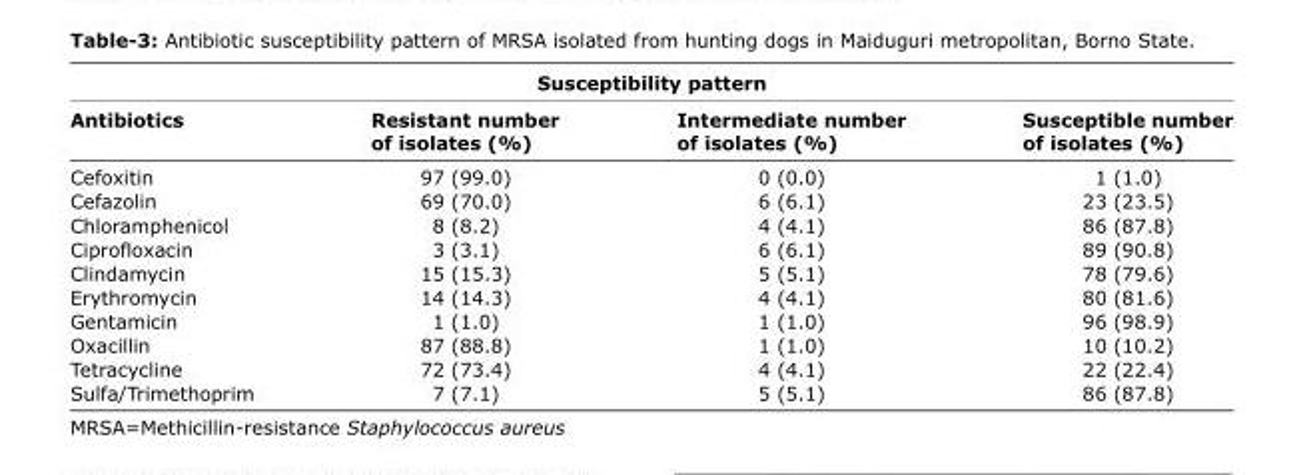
<table><thead><tr><td colspan="4">Susceptibility pattern</td></tr><tr><td>Antibiotics</td><td>Resistant number of isolates (%)</td><td>Intermediate number of isolates (%)</td><td>Susceptible number of isolates (%)</td></tr></thead><tbody><tr><td>Cefoxitin</td><td>97 (99.0)</td><td>0 (0.0)</td><td>1 (1.0)</td></tr><tr><td>Cefazolin</td><td>69 (70.0)</td><td>6 (6.1)</td><td>23 (23.5)</td></tr><tr><td>Chloramphenicol</td><td>8 (8.2)</td><td>4 (4.1)</td><td>86 (87.8)</td></tr><tr><td>Ciprofloxacin</td><td>3 (3.1)</td><td>6 (6.1)</td><td>89 (90.8)</td></tr><tr><td>Clindamycin</td><td>15 (15.3)</td><td>5 (5.1)</td><td>78 (79.6)</td></tr><tr><td>Erythromycin</td><td>14 (14.3)</td><td>4 (4.1)</td><td>80 (81.6)</td></tr><tr><td>Gentamicin</td><td>1 (1.0)</td><td>1 (1.0)</td><td>96 (98.9)</td></tr><tr><td>Oxacillin</td><td>87 (88.8)</td><td>1 (1.0)</td><td>10 (10.2)</td></tr><tr><td>Tetracycline</td><td>72 (73.4)</td><td>4 (4.1)</td><td>22 (22.4)</td></tr><tr><td>Sulfa/Trimethoprim</td><td>7 (7.1)</td><td>5 (5.1)</td><td>86 (87.8)</td></tr></tbody></table>